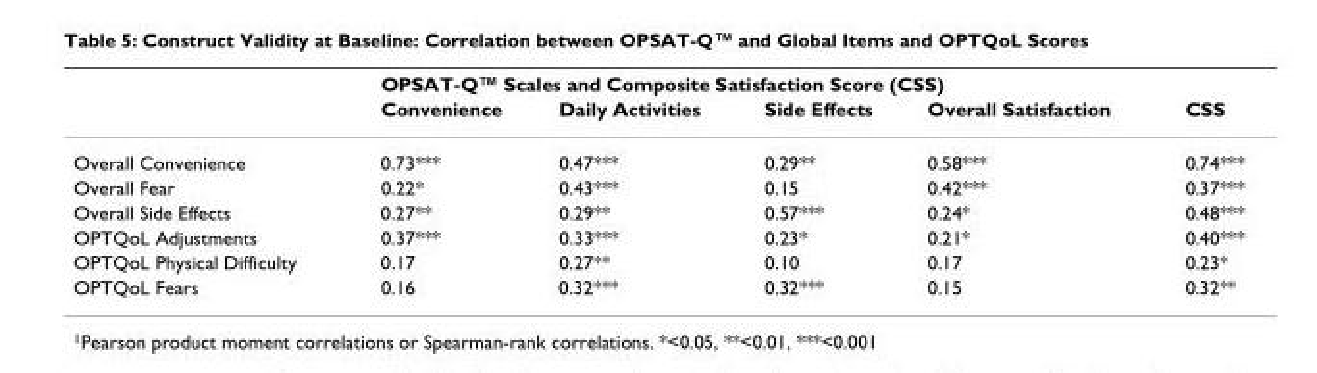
<table><thead><tr><td rowspan="2"></td><td colspan="5">OPSAT-Q™ Scales and Composite Satisfaction Score (CSS)</td></tr><tr><td>Convenience</td><td>Daily Activities</td><td>Side Effects</td><td>Overall Satisfaction</td><td>CSS</td></tr></thead><tbody><tr><td>Overall Convenience</td><td>0.73***</td><td>0.47***</td><td>0.29**</td><td>0.58***</td><td>0.74***</td></tr><tr><td>Overall Fear</td><td>0.22*</td><td>0.43***</td><td>0.15</td><td>0.42***</td><td>0.37***</td></tr><tr><td>Overall Side Effects</td><td>0.27**</td><td>0.29**</td><td>0.57***</td><td>0.24*</td><td>0.48***</td></tr><tr><td>OPTQoL Adjustments</td><td>0.37***</td><td>0.33***</td><td>0.23*</td><td>0.21*</td><td>0.40***</td></tr><tr><td>OPTQoL Physical Difficulty</td><td>0.17</td><td>0.27**</td><td>0.10</td><td>0.17</td><td>0.23*</td></tr><tr><td>OPTQoL Fears</td><td>0.16</td><td>0.32***</td><td>0.32***</td><td>0.15</td><td>0.32**</td></tr></tbody></table>